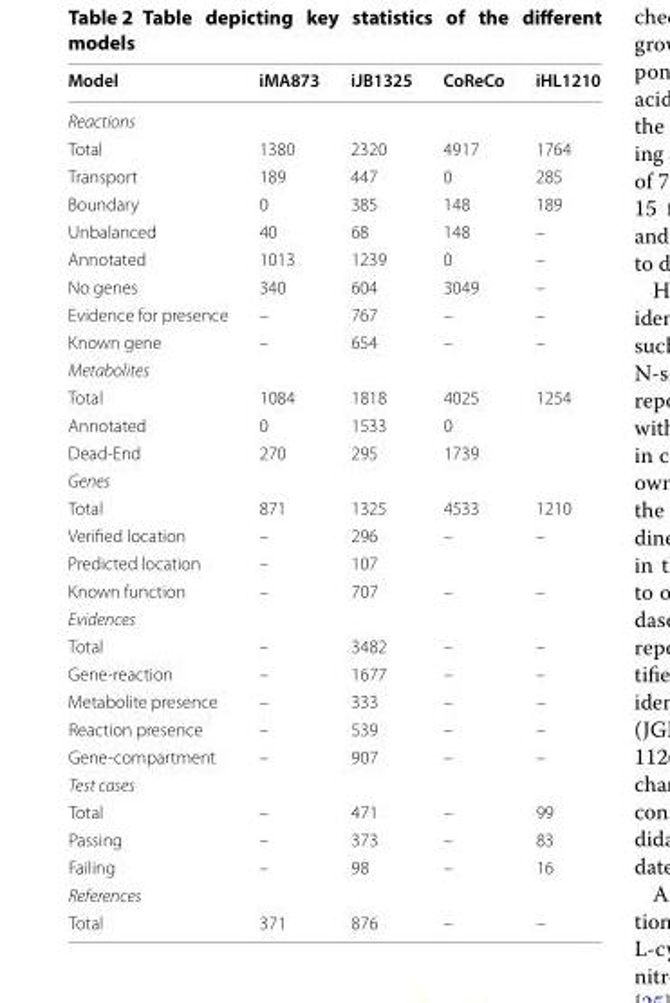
<table><thead><tr><td>Model</td><td>iMA873</td><td>iJB1325</td><td>CoReCo</td><td>iHL1210</td></tr></thead><tbody><tr><td colspan="5">Reactions</td></tr><tr><td>Total</td><td>1380</td><td>2320</td><td>4917</td><td>1764</td></tr><tr><td>Transport</td><td>189</td><td>447</td><td>0</td><td>285</td></tr><tr><td>Boundary</td><td>0</td><td>385</td><td>148</td><td>189</td></tr><tr><td>Unbalanced</td><td>40</td><td>68</td><td>148</td><td>–</td></tr><tr><td>Annotated</td><td>1013</td><td>1239</td><td>0</td><td>–</td></tr><tr><td>No genes</td><td>340</td><td>604</td><td>3049</td><td>–</td></tr><tr><td>Evidence for presence</td><td>–</td><td>767</td><td>–</td><td>–</td></tr><tr><td>Known gene</td><td>–</td><td>654</td><td>–</td><td>–</td></tr><tr><td colspan="5">Metabolites</td></tr><tr><td>Total</td><td>1084</td><td>1818</td><td>4025</td><td>1254</td></tr><tr><td>Annotated</td><td>0</td><td>1533</td><td>0</td><td></td></tr><tr><td>Dead‑End</td><td>270</td><td>295</td><td>1739</td><td></td></tr><tr><td colspan="5">Genes</td></tr><tr><td>Total</td><td>871</td><td>1325</td><td>4533</td><td>1210</td></tr><tr><td>Verified location</td><td>–</td><td>296</td><td>–</td><td>–</td></tr><tr><td>Predicted location</td><td>–</td><td>107</td><td></td><td></td></tr><tr><td>Known function</td><td>–</td><td>707</td><td>–</td><td>–</td></tr><tr><td colspan="5">Evidences</td></tr><tr><td>Total</td><td>–</td><td>3482</td><td>–</td><td>–</td></tr><tr><td>Gene‑reaction</td><td>–</td><td>1677</td><td>–</td><td>–</td></tr><tr><td>Metabolite presence</td><td>–</td><td>333</td><td>–</td><td>–</td></tr><tr><td>Reaction presence</td><td>–</td><td>539</td><td>–</td><td>–</td></tr><tr><td>Gene‑compartment</td><td>–</td><td>907</td><td>–</td><td>–</td></tr><tr><td colspan="5">Test cases</td></tr><tr><td>Total</td><td>–</td><td>471</td><td>–</td><td>99</td></tr><tr><td>Passing</td><td>–</td><td>373</td><td>–</td><td>83</td></tr><tr><td>Failing</td><td>–</td><td>98</td><td>–</td><td>16</td></tr><tr><td colspan="5">References</td></tr><tr><td>Total</td><td>371</td><td>876</td><td>–</td><td>–</td></tr></tbody></table>